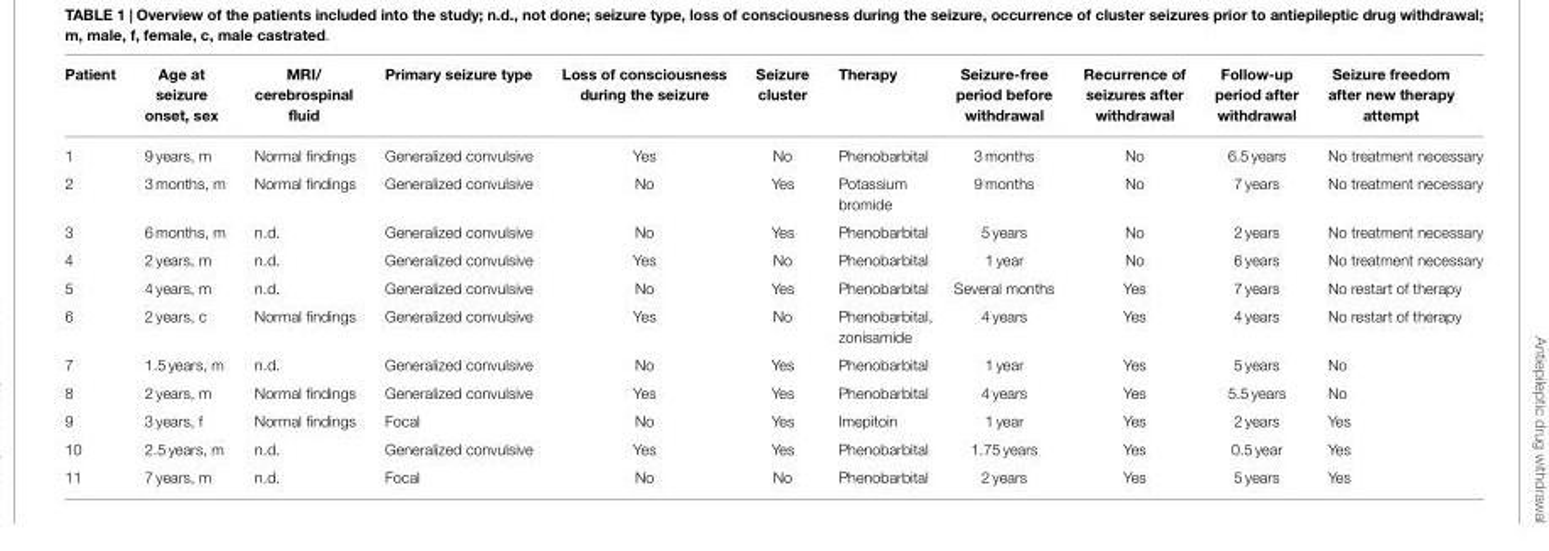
<table><thead><tr><td>Patient</td><td>Age at seizure onset, sex</td><td>MRI/ cerebrospinal fluid</td><td>Primary seizure type</td><td>Loss of consciousness during the seizure</td><td>Seizure cluster</td><td>Therapy</td><td>Seizure-free period before withdrawal</td><td>Recurrence of seizures after withdrawal</td><td>Follow-up period after withdrawal</td><td>Seizure freedom after new therapy attempt</td></tr></thead><tbody><tr><td>1</td><td>9 years, m</td><td>Normal findings</td><td>Generalized convulsive</td><td>Yes</td><td>No</td><td>Phenobarbital</td><td>3 months</td><td>No</td><td>6.5 years</td><td>No treatment necessary</td></tr><tr><td>2</td><td>3 months, m</td><td>Normal findings</td><td>Generalized convulsive</td><td>No</td><td>Yes</td><td>Potassium bromide</td><td>9 months</td><td>No</td><td>7 years</td><td>No treatment necessary</td></tr><tr><td>3</td><td>6 months, m</td><td>n.d.</td><td>Generalized convulsive</td><td>No</td><td>Yes</td><td>Phenobarbital</td><td>5 years</td><td>No</td><td>2 years</td><td>No treatment necessary</td></tr><tr><td>4</td><td>2 years, m</td><td>n.d.</td><td>Generalized convulsive</td><td>Yes</td><td>No</td><td>Phenobarbital</td><td>1 year</td><td>No</td><td>6 years</td><td>No treatment necessary</td></tr><tr><td>5</td><td>4 years, m</td><td>n.d.</td><td>Generalized convulsive</td><td>No</td><td>Yes</td><td>Phenobarbital</td><td>Several months</td><td>Yes</td><td>7 years</td><td>No restart of therapy</td></tr><tr><td>6</td><td>2 years, c</td><td>Normal findings</td><td>Generalized convulsive</td><td>Yes</td><td>No</td><td>Phenobarbital, zonisamide</td><td>4 years</td><td>Yes</td><td>4 years</td><td>No restart of therapy</td></tr><tr><td>7</td><td>1.5 years, m</td><td>n.d.</td><td>Generalized convulsive</td><td>No</td><td>Yes</td><td>Phenobarbital</td><td>1 year</td><td>Yes</td><td>5 years</td><td>No</td></tr><tr><td>8</td><td>2 years, m</td><td>Normal findings</td><td>Generalized convulsive</td><td>Yes</td><td>Yes</td><td>Phenobarbital</td><td>4 years</td><td>Yes</td><td>5.5 years</td><td>No</td></tr><tr><td>9</td><td>3 years, f</td><td>Normal findings</td><td>Focal</td><td>No</td><td>Yes</td><td>Imepitoin</td><td>1 year</td><td>Yes</td><td>2 years</td><td>Yes</td></tr><tr><td>10</td><td>2.5 years, m</td><td>n.d.</td><td>Generalized convulsive</td><td>Yes</td><td>Yes</td><td>Phenobarbital</td><td>1.75 years</td><td>Yes</td><td>0.5 year</td><td>Yes</td></tr><tr><td>11</td><td>7 years, m</td><td>n.d.</td><td>Focal</td><td>No</td><td>No</td><td>Phenobarbital</td><td>2 years</td><td>Yes</td><td>5 years</td><td>Yes</td></tr></tbody></table>